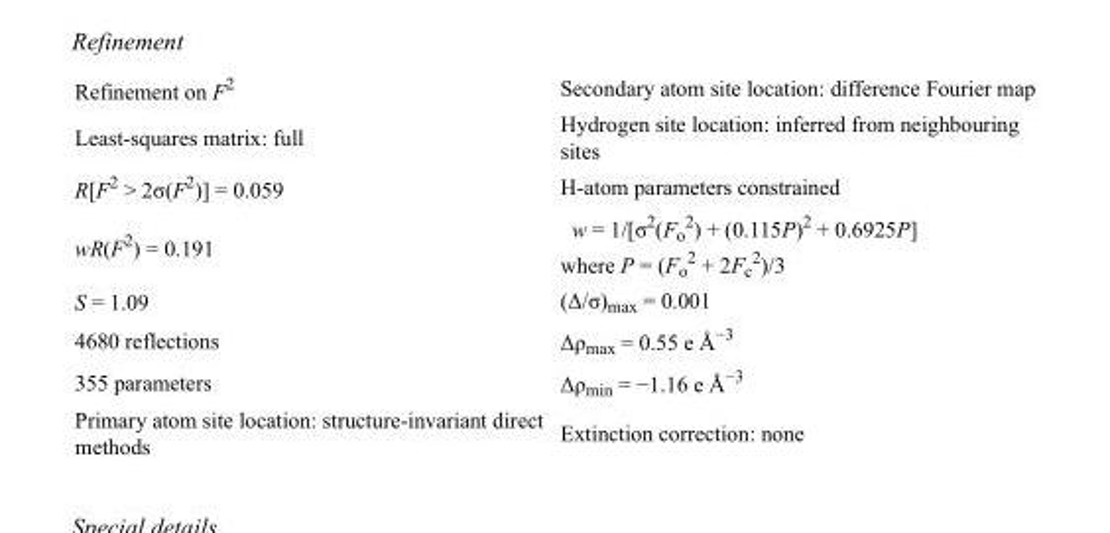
<table><tbody><tr><td>Refinement on F<sup>2</sup></td><td>Secondary atom site location: difference Fourier map</td></tr><tr><td>Least-squares matrix: full</td><td>Hydrogen site location: inferred from neighbouring sites</td></tr><tr><td>R[F<sup>2</sup> &gt; 2σ(F<sup>2</sup>)] = 0.059</td><td>H-atom parameters constrained</td></tr><tr><td>wR(F<sup>2</sup>) = 0.191</td><td>w = 1/[σ<sup>2</sup>(F<sub>o</sub> <sup>2</sup>) + (0.115P)<sup>2</sup> + 0.6925P] where P = (F<sub>o</sub> <sup>2</sup> + 2F<sub>c</sub> <sup>2</sup>)/3</td></tr><tr><td>S = 1.09</td><td>(Δ/σ)<sub>max</sub> = 0.001</td></tr><tr><td>4680 reflections</td><td>Δρ<sub>max</sub> = 0.55 e Å<sup>−3</sup></td></tr><tr><td>355 parameters</td><td>Δρ<sub>min</sub> = −1.16 e Å<sup>−3</sup></td></tr><tr><td>Primary atom site location: structure-invariant direct methods</td><td>Extinction correction: none</td></tr></tbody></table>